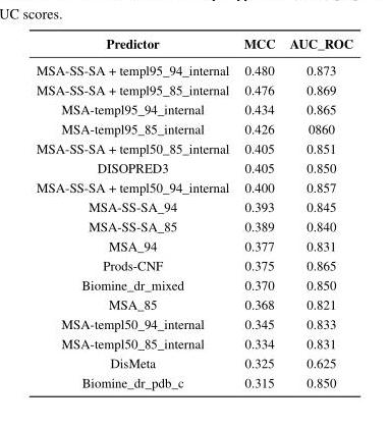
<table><thead><tr><td>Predictor</td><td>MCC</td><td>AUC_ROC</td></tr></thead><tbody><tr><td>MSA-SS-SA + templ95_94_internal</td><td>0.480</td><td>0.873</td></tr><tr><td>MSA-SS-SA + templ95_85_internal</td><td>0.476</td><td>0.869</td></tr><tr><td>MSA-templ95_94_internal</td><td>0.434</td><td>0.865</td></tr><tr><td>MSA-templ95_85_internal</td><td>0.426</td><td>0860</td></tr><tr><td>MSA-SS-SA + templ50_85_internal</td><td>0.405</td><td>0.851</td></tr><tr><td>DISOPRED3</td><td>0.405</td><td>0.850</td></tr><tr><td>MSA-SS-SA + templ50_94_internal</td><td>0.400</td><td>0.857</td></tr><tr><td>MSA-SS-SA_94</td><td>0.393</td><td>0.845</td></tr><tr><td>MSA-SS-SA_85</td><td>0.389</td><td>0.840</td></tr><tr><td>MSA_94</td><td>0.377</td><td>0.831</td></tr><tr><td>Prods-CNF</td><td>0.375</td><td>0.865</td></tr><tr><td>Biomine_dr_mixed</td><td>0.370</td><td>0.850</td></tr><tr><td>MSA_85</td><td>0.368</td><td>0.821</td></tr><tr><td>MSA-templ50_94_internal</td><td>0.345</td><td>0.833</td></tr><tr><td>MSA-templ50_85_internal</td><td>0.334</td><td>0.831</td></tr><tr><td>DisMeta</td><td>0.325</td><td>0.625</td></tr><tr><td>Biomine_dr_pdb_c</td><td>0.315</td><td>0.850</td></tr></tbody></table>